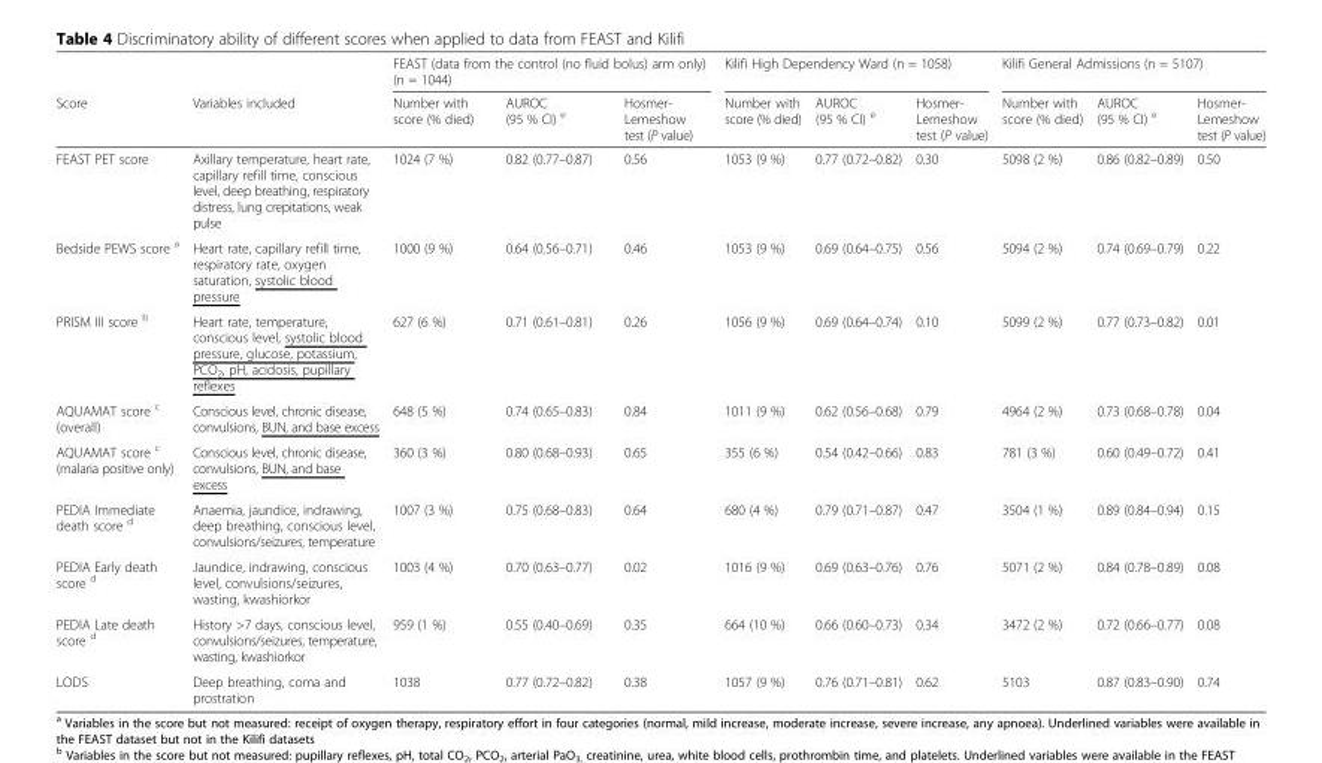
<table><thead><tr><td rowspan="2">Score</td><td rowspan="2">Variables included</td><td colspan="3">FEAST (data from the control (no fluid bolus) arm only) (n = 1044)</td><td colspan="3">Kilifi High Dependency Ward (n = 1058)</td><td colspan="3">Kilifi General Admissions (n = 5107)</td></tr><tr><td>Number with score (% died)</td><td>AUROC (95 % CI) <sup>e</sup></td><td>Hosmer- Lemeshow test (P value)</td><td>Number with score (% died)</td><td>AUROC (95 % CI) <sup>e</sup></td><td>Hosmer- Lemeshow test (P value)</td><td>Number with score (% died)</td><td>AUROC (95 % CI) <sup>e</sup></td><td>Hosmer- Lemeshow test (P value)</td></tr></thead><tbody><tr><td>FEAST PET score</td><td>Axillary temperature, heart rate, capillary refill time, conscious level, deep breathing, respiratory distress, lung crepitations, weak pulse</td><td>1024 (7 %)</td><td>0.82 (0.77–0.87)</td><td>0.56</td><td>1053 (9 %)</td><td>0.77 (0.72–0.82)</td><td>0.30</td><td>5098 (2 %)</td><td>0.86 (0.82–0.89)</td><td>0.50</td></tr><tr><td>Bedside PEWS score <sup>a</sup></td><td>Heart rate, capillary refill time, respiratory rate, oxygen saturation, systolic blood pressure</td><td>1000 (9 %)</td><td>0.64 (0.56–0.71)</td><td>0.46</td><td>1053 (9 %)</td><td>0.69 (0.64–0.75)</td><td>0.56</td><td>5094 (2 %)</td><td>0.74 (0.69–0.79)</td><td>0.22</td></tr><tr><td>PRISM III score <sup>b</sup></td><td>Heart rate, temperature, conscious level, systolic blood pressure, glucose, potassium, PCO<sub>2</sub>, pH, acidosis, pupillary reflexes</td><td>627 (6 %)</td><td>0.71 (0.61–0.81)</td><td>0.26</td><td>1056 (9 %)</td><td>0.69 (0.64–0.74)</td><td>0.10</td><td>5099 (2 %)</td><td>0.77 (0.73–0.82)</td><td>0.01</td></tr><tr><td>AQUAMAT score <sup>c</sup> (overall)</td><td>Conscious level, chronic disease, convulsions, BUN, and base excess</td><td>648 (5 %)</td><td>0.74 (0.65–0.83)</td><td>0.84</td><td>1011 (9 %)</td><td>0.62 (0.56–0.68)</td><td>0.79</td><td>4964 (2 %)</td><td>0.73 (0.68–0.78)</td><td>0.04</td></tr><tr><td>AQUAMAT score <sup>c</sup> (malaria positive only)</td><td>Conscious level, chronic disease, convulsions, BUN, and base excess</td><td>360 (3 %)</td><td>0.80 (0.68–0.93)</td><td>0.65</td><td>355 (6 %)</td><td>0.54 (0.42–0.66)</td><td>0.83</td><td>781 (3 %)</td><td>0.60 (0.49–0.72)</td><td>0.41</td></tr><tr><td>PEDIA Immediate death score <sup>d</sup></td><td>Anaemia, jaundice, indrawing, deep breathing, conscious level, convulsions/seizures, temperature</td><td>1007 (3 %)</td><td>0.75 (0.68–0.83)</td><td>0.64</td><td>680 (4 %)</td><td>0.79 (0.71–0.87)</td><td>0.47</td><td>3504 (1 %)</td><td>0.89 (0.84–0.94)</td><td>0.15</td></tr><tr><td>PEDIA Early death score <sup>d</sup></td><td>Jaundice, indrawing, conscious level, convulsions/seizures, wasting, kwashiorkor</td><td>1003 (4 %)</td><td>0.70 (0.63–0.77)</td><td>0.02</td><td>1016 (9 %)</td><td>0.69 (0.63–0.76)</td><td>0.76</td><td>5071 (2 %)</td><td>0.84 (0.78–0.89)</td><td>0.08</td></tr><tr><td>PEDIA Late death score <sup>d</sup></td><td>History &gt;7 days, conscious level, convulsions/seizures, temperature, wasting, kwashiorkor</td><td>959 (1 %)</td><td>0.55 (0.40–0.69)</td><td>0.35</td><td>664 (10 %)</td><td>0.66 (0.60–0.73)</td><td>0.34</td><td>3472 (2 %)</td><td>0.72 (0.66–0.77)</td><td>0.08</td></tr><tr><td>LODS</td><td>Deep breathing, coma and prostration</td><td>1038</td><td>0.77 (0.72–0.82)</td><td>0.38</td><td>1057 (9 %)</td><td>0.76 (0.71–0.81)</td><td>0.62</td><td>5103</td><td>0.87 (0.83–0.90)</td><td>0.74</td></tr></tbody></table>